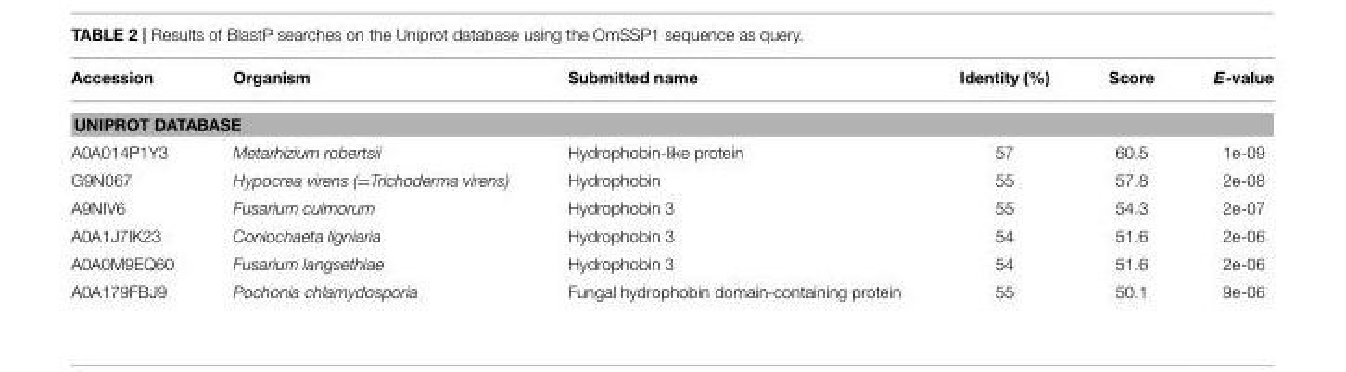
<table><thead><tr><td>Accession</td><td>Organism</td><td>Submitted name</td><td>Identity (%)</td><td>Score</td><td>E-value</td></tr></thead><tbody><tr><td colspan="6">UNIPROT DATABASE</td></tr><tr><td>A0A014P1Y3</td><td>Metarhizium robertsii</td><td>Hydrophobin-like protein</td><td>57</td><td>60.5</td><td>1e-09</td></tr><tr><td>G9N067</td><td>Hypocrea virens (=Trichoderma virens)</td><td>Hydrophobin</td><td>55</td><td>57.8</td><td>2e-08</td></tr><tr><td>A9NIV6</td><td>Fusarium culmorum</td><td>Hydrophobin 3</td><td>55</td><td>54.3</td><td>2e-07</td></tr><tr><td>A0A1J7IK23</td><td>Coniochaeta ligniaria</td><td>Hydrophobin 3</td><td>54</td><td>51.6</td><td>2e-06</td></tr><tr><td>A0A0M9EQ60</td><td>Fusarium langsethiae</td><td>Hydrophobin 3</td><td>54</td><td>51.6</td><td>2e-06</td></tr><tr><td>A0A179FBJ9</td><td>Pochonia chlamydosporia</td><td>Fungal hydrophobin domain-containing protein</td><td>55</td><td>50.1</td><td>9e-06</td></tr></tbody></table>